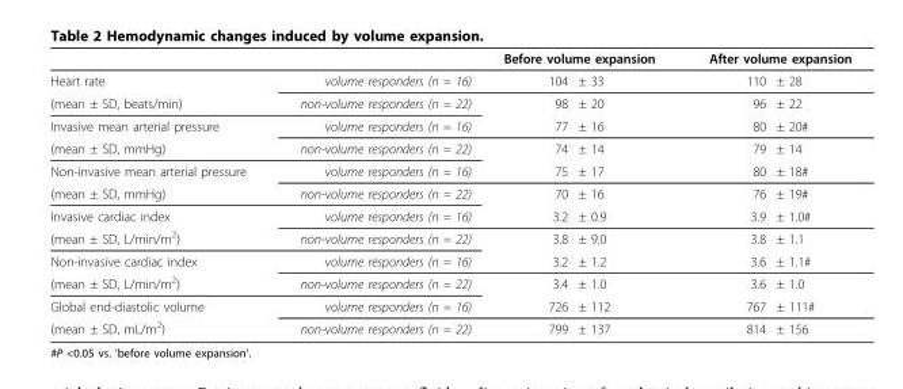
<table><thead><tr><td rowspan="2">Heart rate</td><td rowspan="2">volume responders (n = 16)</td><td colspan="2">Before volume expansion</td><td colspan="2">After volume expansion</td></tr><tr><td>104</td><td>± 33</td><td>110</td><td>± 28</td></tr></thead><tbody><tr><td>(mean ± SD, beats/min)</td><td>non-volume responders (n = 22)</td><td>98</td><td>± 20</td><td>96</td><td>± 22</td></tr><tr><td>Invasive mean arterial pressure</td><td>volume responders (n = 16)</td><td>77</td><td>± 16</td><td>80</td><td>± 20#</td></tr><tr><td>(mean ± SD, mmHg)</td><td>non-volume responders (n = 22)</td><td>74</td><td>± 14</td><td>79</td><td>± 14</td></tr><tr><td>Non-invasive mean arterial pressure</td><td>volume responders (n = 16)</td><td>75</td><td>± 17</td><td>80</td><td>± 18#</td></tr><tr><td>(mean ± SD, mmHg)</td><td>non-volume responders (n = 22)</td><td>70</td><td>± 16</td><td>76</td><td>± 19#</td></tr><tr><td>Invasive cardiac index</td><td>volume responders (n = 16)</td><td>3.2</td><td>± 0.9</td><td>3.9</td><td>± 1.0#</td></tr><tr><td>(mean ± SD, L/min/m<sup>2</sup>)</td><td>non-volume responders (n = 22)</td><td>3.8</td><td>± 9.0</td><td>3.8</td><td>± 1.1</td></tr><tr><td>Non-invasive cardiac index</td><td>volume responders (n = 16)</td><td>3.2</td><td>± 1.2</td><td>3.6</td><td>± 1.1#</td></tr><tr><td>(mean ± SD, L/min/m<sup>2</sup>)</td><td>non-volume responders (n = 22)</td><td>3.4</td><td>± 1.0</td><td>3.6</td><td>± 1.0</td></tr><tr><td>Global end-diastolic volume</td><td>volume responders (n = 16)</td><td>726</td><td>± 112</td><td>767</td><td>± 111#</td></tr><tr><td>(mean ± SD, mL/m<sup>2</sup>)</td><td>non-volume responders (n = 22)</td><td>799</td><td>± 137</td><td>814</td><td>± 156</td></tr></tbody></table>